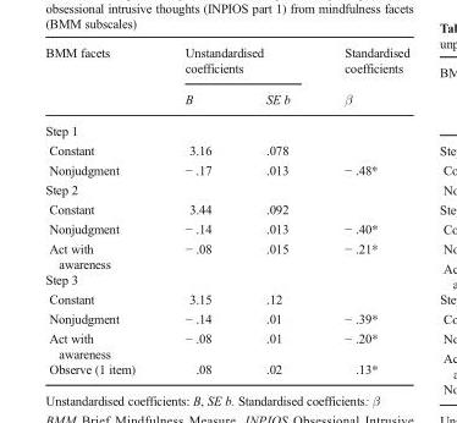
<table><thead><tr><td rowspan="2">BMM facets</td><td colspan="2">Unstandardised coefficients</td><td rowspan="2">Standardised coefficients β</td></tr><tr><td>B</td><td>SE b</td></tr></thead><tbody><tr><td colspan="4">Step 1</td></tr><tr><td>Constant</td><td>3.16</td><td>.078</td><td></td></tr><tr><td>Nonjudgment</td><td>− .17</td><td>.013</td><td>− .48*</td></tr><tr><td colspan="4">Step 2</td></tr><tr><td>Constant</td><td>3.44</td><td>.092</td><td></td></tr><tr><td>Nonjudgment</td><td>− .14</td><td>.013</td><td>− .40*</td></tr><tr><td>Act with awareness</td><td>− .08</td><td>.015</td><td>− .21*</td></tr><tr><td colspan="4">Step 3</td></tr><tr><td>Constant</td><td>3.15</td><td>.12</td><td></td></tr><tr><td>Nonjudgment</td><td>− .14</td><td>.01</td><td>− .39*</td></tr><tr><td>Act with awareness</td><td>− .08</td><td>.01</td><td>− .20*</td></tr><tr><td>Observe (1 item)</td><td>.08</td><td>.02</td><td>.13*</td></tr></tbody></table>